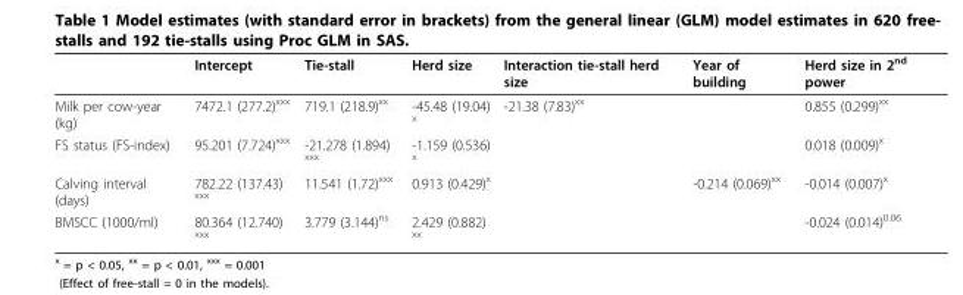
<table><thead><tr><td></td><td>Intercept</td><td>Tie-stall</td><td>Herd size</td><td>Interaction tie-stall herd size</td><td>Year of building</td><td>Herd size in 2<sup>nd</sup> power</td></tr></thead><tbody><tr><td>Milk per cow-year (kg)</td><td>7472.1 (277.2)<sup>xxx</sup></td><td>719.1 (218.9)<sup>xx</sup></td><td>-45.48 (19.04) <sup>x</sup></td><td>-21.38 (7.83)<sup>xx</sup></td><td></td><td>0.855 (0.299)<sup>xx</sup></td></tr><tr><td>FS status (FS-index)</td><td>95.201 (7.724)<sup>xxx</sup></td><td>-21.278 (1.894) <sup>xxx</sup></td><td>-1.159 (0.536) <sup>x</sup></td><td></td><td></td><td>0.018 (0.009)<sup>x</sup></td></tr><tr><td>Calving interval (days)</td><td>782.22 (137.43) <sup>xxx</sup></td><td>11.541 (1.72)<sup>xxx</sup></td><td>0.913 (0.429)<sup>x</sup></td><td></td><td>-0.214 (0.069)<sup>xx</sup></td><td>-0.014 (0.007)<sup>x</sup></td></tr><tr><td>BMSCC (1000/ml)</td><td>80.364 (12.740) <sup>xxx</sup></td><td>3.779 (3.144)<sup>ns</sup></td><td>2.429 (0.882) <sup>xx</sup></td><td></td><td></td><td>-0.024 (0.014)<sup>0.06</sup></td></tr></tbody></table>